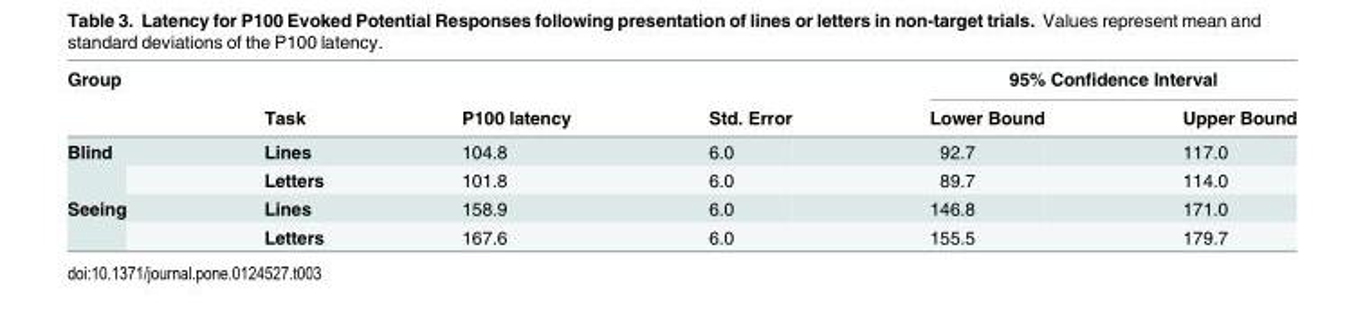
<table><thead><tr><td rowspan="2">Group</td><td rowspan="2">Task</td><td rowspan="2">P100 latency</td><td rowspan="2">Std. Error</td><td colspan="2">95% Confidence Interval</td></tr><tr><td>Lower Bound</td><td>Upper Bound</td></tr></thead><tbody><tr><td rowspan="2">Blind</td><td>Lines</td><td>104.8</td><td>6.0</td><td>92.7</td><td>117.0</td></tr><tr><td>Letters</td><td>101.8</td><td>6.0</td><td>89.7</td><td>114.0</td></tr><tr><td rowspan="2">Seeing</td><td>Lines</td><td>158.9</td><td>6.0</td><td>146.8</td><td>171.0</td></tr><tr><td>Letters</td><td>167.6</td><td>6.0</td><td>155.5</td><td>179.7</td></tr></tbody></table>